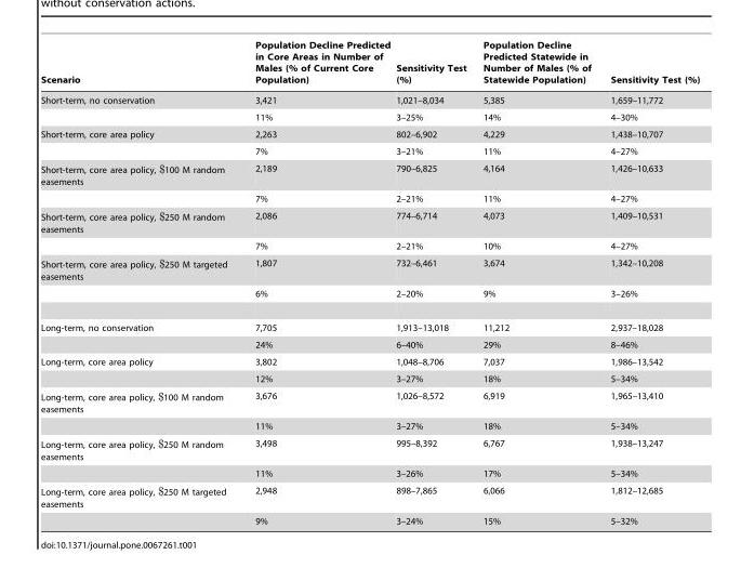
<table><thead><tr><td>Scenario</td><td>Population Decline Predicted in Core Areas in Number of Males (% of Current Core Population)</td><td>Sensitivity Test (%)</td><td>Population Decline Predicted Statewide in Number of Males (% of Statewide Population)</td><td>Sensitivity Test (%)</td></tr></thead><tbody><tr><td rowspan="2">Short-term, no conservation</td><td>3,421</td><td>1,021–8,034</td><td>5,385</td><td>1,659–11,772</td></tr><tr><td>11%</td><td>3–25%</td><td>14%</td><td>4–30%</td></tr><tr><td rowspan="2">Short-term, core area policy</td><td>2,263</td><td>802–6,902</td><td>4,229</td><td>1,438–10,707</td></tr><tr><td>7%</td><td>3–21%</td><td>11%</td><td>4–27%</td></tr><tr><td rowspan="2">Short-term, core area policy, $100 M random easements</td><td>2,189</td><td>790–6,825</td><td>4,164</td><td>1,426–10,633</td></tr><tr><td>7%</td><td>2–21%</td><td>11%</td><td>4–27%</td></tr><tr><td rowspan="2">Short-term, core area policy, $250 M random easements</td><td>2,086</td><td>774–6,714</td><td>4,073</td><td>1,409–10,531</td></tr><tr><td>7%</td><td>2–21%</td><td>10%</td><td>4–27%</td></tr><tr><td rowspan="2">Short-term, core area policy, $250 M targeted easements</td><td>1,807</td><td>732–6,461</td><td>3,674</td><td>1,342–10,208</td></tr><tr><td>6%</td><td>2–20%</td><td>9%</td><td>3–26%</td></tr><tr><td rowspan="2">Long-term, no conservation</td><td>7,705</td><td>1,913–13,018</td><td>11,212</td><td>2,937–18,028</td></tr><tr><td>24%</td><td>6–40%</td><td>29%</td><td>8–46%</td></tr><tr><td rowspan="2">Long-term, core area policy</td><td>3,802</td><td>1,048–8,706</td><td>7,037</td><td>1,986–13,542</td></tr><tr><td>12%</td><td>3–27%</td><td>18%</td><td>5–34%</td></tr><tr><td rowspan="2">Long-term, core area policy, $100 M random easements</td><td>3,676</td><td>1,026–8,572</td><td>6,919</td><td>1,965–13,410</td></tr><tr><td>11%</td><td>3–27%</td><td>18%</td><td>5–34%</td></tr><tr><td rowspan="2">Long-term, core area policy, $250 M random easements</td><td>3,498</td><td>995–8,392</td><td>6,767</td><td>1,938–13,247</td></tr><tr><td>11%</td><td>3–26%</td><td>17%</td><td>5–34%</td></tr><tr><td rowspan="2">Long-term, core area policy, $250 M targeted easements</td><td>2,948</td><td>898–7,865</td><td>6,066</td><td>1,812–12,685</td></tr><tr><td>9%</td><td>3–24%</td><td>15%</td><td>5–32%</td></tr></tbody></table>